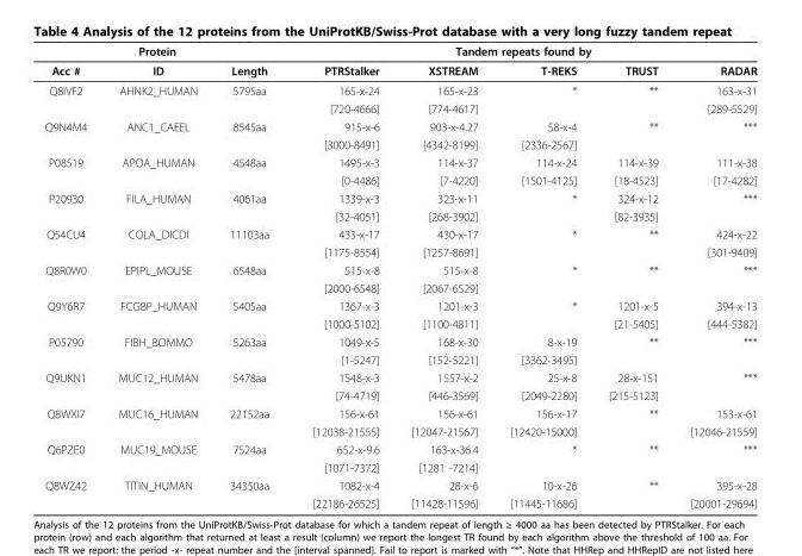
<table><thead><tr><td colspan="3">Protein</td><td colspan="5">Tandem repeats found by</td></tr><tr><td>Acc #</td><td>ID</td><td>Length</td><td>PTRStalker</td><td>XSTREAM</td><td>T-REKS</td><td>TRUST</td><td>RADAR</td></tr></thead><tbody><tr><td rowspan="2">Q8IVF2</td><td>AHNK2_HUMAN</td><td>5795aa</td><td>165-x-24</td><td>165-x-23</td><td>*</td><td>**</td><td>163-x-31</td></tr><tr><td></td><td></td><td>[720-4666]</td><td>[774-4617]</td><td></td><td></td><td>[289-5529]</td></tr><tr><td rowspan="2">Q9N4M4</td><td>ANC1_CAEEL</td><td>8545aa</td><td>915-x-6</td><td>903-x-4.27</td><td>58-x-4</td><td>**</td><td>***</td></tr><tr><td></td><td></td><td>[3000-8491]</td><td>[4342-8199]</td><td>[2336-2567]</td><td></td><td></td></tr><tr><td rowspan="2">P08519</td><td>APOA_HUMAN</td><td>4548aa</td><td>1495-x-3</td><td>114-x-37</td><td>114-x-24</td><td>114-x-39</td><td>111-x-38</td></tr><tr><td></td><td></td><td>[0-4486]</td><td>[7-4220]</td><td>[1501-4125]</td><td>[18-4523]</td><td>[17-4282]</td></tr><tr><td rowspan="2">P20930</td><td>FILA_HUMAN</td><td>4061aa</td><td>1339-x-3</td><td>323-x-11</td><td>*</td><td>324-x-12</td><td>***</td></tr><tr><td></td><td></td><td>[32-4051]</td><td>[268-3902]</td><td></td><td>[82-3935]</td><td></td></tr><tr><td rowspan="2">Q54CU4</td><td>COLA_DICDI</td><td>11103aa</td><td>433-x-17</td><td>430-x-17</td><td>*</td><td>**</td><td>424-x-22</td></tr><tr><td></td><td></td><td>[1175-8554]</td><td>[1257-8691]</td><td></td><td></td><td>[301-9409]</td></tr><tr><td rowspan="2">Q8R0W0</td><td>EPIPL_MOUSE</td><td>6548aa</td><td>515-x-8</td><td>515-x-8</td><td>*</td><td>**</td><td>***</td></tr><tr><td></td><td></td><td>[2000-6548]</td><td>[2067-6529]</td><td></td><td></td><td></td></tr><tr><td rowspan="2">Q9Y6R7</td><td>FCGBP_HUMAN</td><td>5405aa</td><td>1367-x-3</td><td>1201-x-3</td><td>*</td><td>1201-x-5</td><td>394-x-13</td></tr><tr><td></td><td></td><td>[1000-5102]</td><td>[1100-4811]</td><td></td><td>[21-5405]</td><td>[444-5382]</td></tr><tr><td rowspan="2">P05790</td><td>FIBH_BOMMO</td><td>5263aa</td><td>1049-x-5</td><td>168-x-30</td><td>8-x-19</td><td>**</td><td>***</td></tr><tr><td></td><td></td><td>[1-5247]</td><td>[152-5221]</td><td>[3362-3495]</td><td></td><td></td></tr><tr><td rowspan="2">Q9UKN1</td><td>MUC12_HUMAN</td><td>5478aa</td><td>1548-x-3</td><td>1557-x-2</td><td>25-x-8</td><td>28-x-151</td><td>***</td></tr><tr><td></td><td></td><td>[74-4719]</td><td>[446-3569]</td><td>[2049-2280]</td><td>[215-5123]</td><td></td></tr><tr><td rowspan="2">Q8WXI7</td><td>MUC16_HUMAN</td><td>22152aa</td><td>156-x-61</td><td>156-x-61</td><td>156-x-17</td><td>**</td><td>153-x-61</td></tr><tr><td></td><td></td><td>[12038-21555]</td><td>[12047-21567]</td><td>[12420-15000]</td><td></td><td>[12046-21559]</td></tr><tr><td rowspan="2">Q6PZE0</td><td>MUC19_MOUSE</td><td>7524aa</td><td>652-x-9.6</td><td>163-x-36.4</td><td>*</td><td>**</td><td>***</td></tr><tr><td></td><td></td><td>[1071-7372]</td><td>[1281 -7214]</td><td></td><td></td><td></td></tr><tr><td rowspan="2">Q8WZ42</td><td>TITIN_HUMAN</td><td>34350aa</td><td>1082-x-4</td><td>28-x-6</td><td>10-x-26</td><td>**</td><td>395-x-28</td></tr><tr><td></td><td></td><td>[22186-26525]</td><td>[11428-11596]</td><td>[11445-11686]</td><td></td><td>[20001-29694]</td></tr></tbody></table>